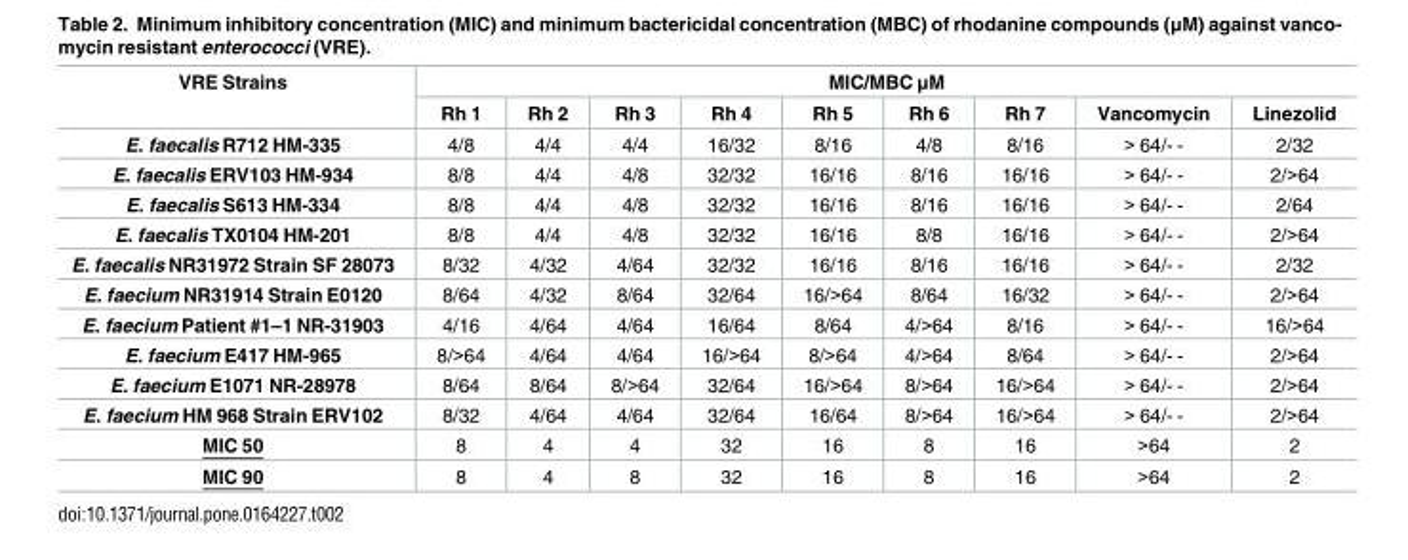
<table><thead><tr><td rowspan="2">VRE Strains</td><td colspan="9">MIC/MBC μM</td></tr><tr><td>Rh 1</td><td>Rh 2</td><td>Rh 3</td><td>Rh 4</td><td>Rh 5</td><td>Rh 6</td><td>Rh 7</td><td>Vancomycin</td><td>Linezolid</td></tr></thead><tbody><tr><td>E. faecalis R712 HM-335</td><td>4/8</td><td>4/4</td><td>4/4</td><td>16/32</td><td>8/16</td><td>4/8</td><td>8/16</td><td>&gt; 64/- -</td><td>2/32</td></tr><tr><td>E. faecalis ERV103 HM-934</td><td>8/8</td><td>4/4</td><td>4/8</td><td>32/32</td><td>16/16</td><td>8/16</td><td>16/16</td><td>&gt; 64/- -</td><td>2/&gt;64</td></tr><tr><td>E. faecalis S613 HM-334</td><td>8/8</td><td>4/4</td><td>4/8</td><td>32/32</td><td>16/16</td><td>8/16</td><td>16/16</td><td>&gt; 64/- -</td><td>2/64</td></tr><tr><td>E. faecalis TX0104 HM-201</td><td>8/8</td><td>4/4</td><td>4/8</td><td>32/32</td><td>16/16</td><td>8/8</td><td>16/16</td><td>&gt; 64/- -</td><td>2/&gt;64</td></tr><tr><td>E. faecalis NR31972 Strain SF 28073</td><td>8/32</td><td>4/32</td><td>4/64</td><td>32/32</td><td>16/16</td><td>8/16</td><td>16/16</td><td>&gt; 64/- -</td><td>2/32</td></tr><tr><td>E. faecium NR31914 Strain E0120</td><td>8/64</td><td>4/32</td><td>8/64</td><td>32/64</td><td>16/&gt;64</td><td>8/64</td><td>16/32</td><td>&gt; 64/- -</td><td>2/&gt;64</td></tr><tr><td>E. faecium Patient #1–1 NR-31903</td><td>4/16</td><td>4/64</td><td>4/64</td><td>16/64</td><td>8/64</td><td>4/&gt;64</td><td>8/16</td><td>&gt; 64/- -</td><td>16/&gt;64</td></tr><tr><td>E. faecium E417 HM-965</td><td>8/&gt;64</td><td>4/64</td><td>4/64</td><td>16/&gt;64</td><td>8/&gt;64</td><td>4/&gt;64</td><td>8/64</td><td>&gt; 64/- -</td><td>2/&gt;64</td></tr><tr><td>E. faecium E1071 NR-28978</td><td>8/64</td><td>8/64</td><td>8/&gt;64</td><td>32/64</td><td>16/&gt;64</td><td>8/&gt;64</td><td>16/&gt;64</td><td>&gt; 64/- -</td><td>2/&gt;64</td></tr><tr><td>E. faecium HM 968 Strain ERV102</td><td>8/32</td><td>4/64</td><td>4/64</td><td>32/64</td><td>16/64</td><td>8/&gt;64</td><td>16/&gt;64</td><td>&gt; 64/- -</td><td>2/&gt;64</td></tr><tr><td>MIC 50</td><td>8</td><td>4</td><td>4</td><td>32</td><td>16</td><td>8</td><td>16</td><td>&gt;64</td><td>2</td></tr><tr><td>MIC 90</td><td>8</td><td>4</td><td>8</td><td>32</td><td>16</td><td>8</td><td>16</td><td>&gt;64</td><td>2</td></tr></tbody></table>